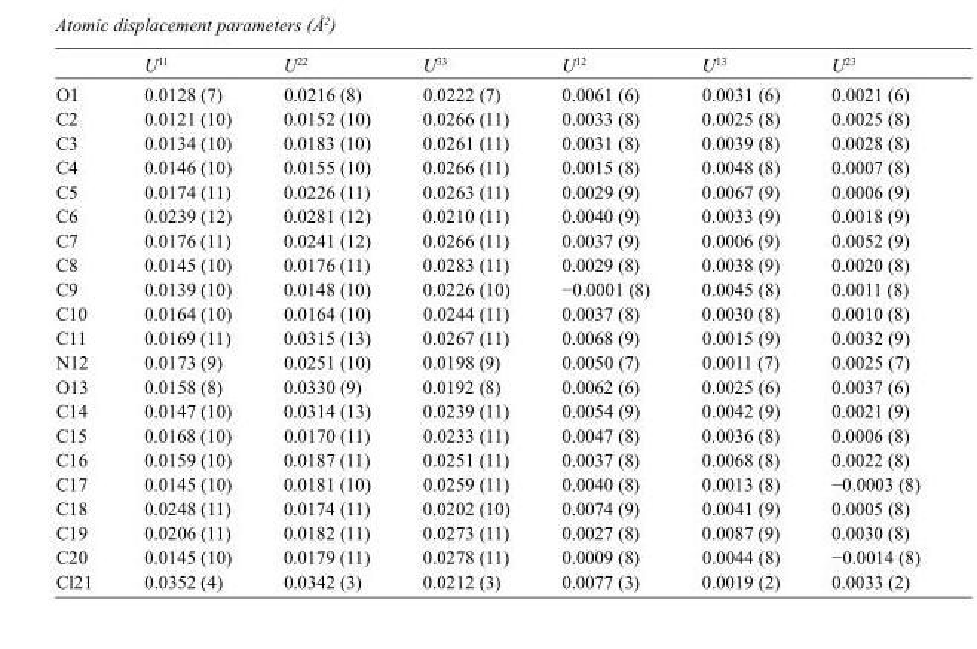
<table><thead><tr><td></td><td>U<sup>11</sup></td><td>U<sup>22</sup></td><td>U<sup>33</sup></td><td>U<sup>12</sup></td><td>U<sup>13</sup></td><td>U<sup>23</sup></td></tr></thead><tbody><tr><td>O1</td><td>0.0128 (7)</td><td>0.0216 (8)</td><td>0.0222 (7)</td><td>0.0061 (6)</td><td>0.0031 (6)</td><td>0.0021 (6)</td></tr><tr><td>C2</td><td>0.0121 (10)</td><td>0.0152 (10)</td><td>0.0266 (11)</td><td>0.0033 (8)</td><td>0.0025 (8)</td><td>0.0025 (8)</td></tr><tr><td>C3</td><td>0.0134 (10)</td><td>0.0183 (10)</td><td>0.0261 (11)</td><td>0.0031 (8)</td><td>0.0039 (8)</td><td>0.0028 (8)</td></tr><tr><td>C4</td><td>0.0146 (10)</td><td>0.0155 (10)</td><td>0.0266 (11)</td><td>0.0015 (8)</td><td>0.0048 (8)</td><td>0.0007 (8)</td></tr><tr><td>C5</td><td>0.0174 (11)</td><td>0.0226 (11)</td><td>0.0263 (11)</td><td>0.0029 (9)</td><td>0.0067 (9)</td><td>0.0006 (9)</td></tr><tr><td>C6</td><td>0.0239 (12)</td><td>0.0281 (12)</td><td>0.0210 (11)</td><td>0.0040 (9)</td><td>0.0033 (9)</td><td>0.0018 (9)</td></tr><tr><td>C7</td><td>0.0176 (11)</td><td>0.0241 (12)</td><td>0.0266 (11)</td><td>0.0037 (9)</td><td>0.0006 (9)</td><td>0.0052 (9)</td></tr><tr><td>C8</td><td>0.0145 (10)</td><td>0.0176 (11)</td><td>0.0283 (11)</td><td>0.0029 (8)</td><td>0.0038 (9)</td><td>0.0020 (8)</td></tr><tr><td>C9</td><td>0.0139 (10)</td><td>0.0148 (10)</td><td>0.0226 (10)</td><td>−0.0001 (8)</td><td>0.0045 (8)</td><td>0.0011 (8)</td></tr><tr><td>C10</td><td>0.0164 (10)</td><td>0.0164 (10)</td><td>0.0244 (11)</td><td>0.0037 (8)</td><td>0.0030 (8)</td><td>0.0010 (8)</td></tr><tr><td>C11</td><td>0.0169 (11)</td><td>0.0315 (13)</td><td>0.0267 (11)</td><td>0.0068 (9)</td><td>0.0015 (9)</td><td>0.0032 (9)</td></tr><tr><td>N12</td><td>0.0173 (9)</td><td>0.0251 (10)</td><td>0.0198 (9)</td><td>0.0050 (7)</td><td>0.0011 (7)</td><td>0.0025 (7)</td></tr><tr><td>O13</td><td>0.0158 (8)</td><td>0.0330 (9)</td><td>0.0192 (8)</td><td>0.0062 (6)</td><td>0.0025 (6)</td><td>0.0037 (6)</td></tr><tr><td>C14</td><td>0.0147 (10)</td><td>0.0314 (13)</td><td>0.0239 (11)</td><td>0.0054 (9)</td><td>0.0042 (9)</td><td>0.0021 (9)</td></tr><tr><td>C15</td><td>0.0168 (10)</td><td>0.0170 (11)</td><td>0.0233 (11)</td><td>0.0047 (8)</td><td>0.0036 (8)</td><td>0.0006 (8)</td></tr><tr><td>C16</td><td>0.0159 (10)</td><td>0.0187 (11)</td><td>0.0251 (11)</td><td>0.0037 (8)</td><td>0.0068 (8)</td><td>0.0022 (8)</td></tr><tr><td>C17</td><td>0.0145 (10)</td><td>0.0181 (10)</td><td>0.0259 (11)</td><td>0.0040 (8)</td><td>0.0013 (8)</td><td>−0.0003 (8)</td></tr><tr><td>C18</td><td>0.0248 (11)</td><td>0.0174 (11)</td><td>0.0202 (10)</td><td>0.0074 (9)</td><td>0.0041 (9)</td><td>0.0005 (8)</td></tr><tr><td>C19</td><td>0.0206 (11)</td><td>0.0182 (11)</td><td>0.0273 (11)</td><td>0.0027 (8)</td><td>0.0087 (9)</td><td>0.0030 (8)</td></tr><tr><td>C20</td><td>0.0145 (10)</td><td>0.0179 (11)</td><td>0.0278 (11)</td><td>0.0009 (8)</td><td>0.0044 (8)</td><td>−0.0014 (8)</td></tr><tr><td>Cl21</td><td>0.0352 (4)</td><td>0.0342 (3)</td><td>0.0212 (3)</td><td>0.0077 (3)</td><td>0.0019 (2)</td><td>0.0033 (2)</td></tr></tbody></table>